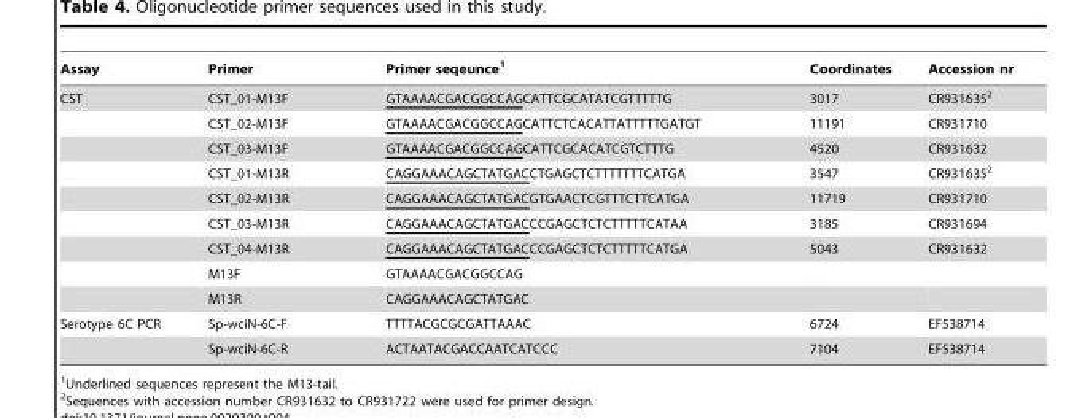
<table><thead><tr><td>Assay</td><td>Primer</td><td>Primer seqeunce<sup>1</sup></td><td>Coordinates</td><td>Accession nr</td></tr></thead><tbody><tr><td rowspan="9">CST</td><td>CST_01-M13F</td><td>GTAAAACGACGGCCAGCATTCGCATATCGTTTTTG</td><td>3017</td><td>CR931635<sup>2</sup></td></tr><tr><td>CST_02-M13F</td><td>GTAAAACGACGGCCAGCATTCTCACATTATTTTTGATGT</td><td>11191</td><td>CR931710</td></tr><tr><td>CST_03-M13F</td><td>GTAAAACGACGGCCAGCATTCGCACATCGTCTTTG</td><td>4520</td><td>CR931632</td></tr><tr><td>CST_01-M13R</td><td>CAGGAAACAGCTATGACCTGAGCTCTTTTTTTCATGA</td><td>3547</td><td>CR931635<sup>2</sup></td></tr><tr><td>CST_02-M13R</td><td>CAGGAAACAGCTATGACGTGAACTCGTTTCTTCATGA</td><td>11719</td><td>CR931710</td></tr><tr><td>CST_03-M13R</td><td>CAGGAAACAGCTATGACCCGAGCTCTCTTTTTCATAA</td><td>3185</td><td>CR931694</td></tr><tr><td>CST_04-M13R</td><td>CAGGAAACAGCTATGACCCGAGCTCTCTTTTTCATGA</td><td>5043</td><td>CR931632</td></tr><tr><td>M13F</td><td>GTAAAACGACGGCCAG</td><td></td><td></td></tr><tr><td>M13R</td><td>CAGGAAACAGCTATGAC</td><td></td><td></td></tr><tr><td rowspan="2">Serotype 6C PCR</td><td>Sp-wciN-6C-F</td><td>TTTTACGCGCGATTAAAC</td><td>6724</td><td>EF538714</td></tr><tr><td>Sp-wciN-6C-R</td><td>ACTAATACGACCAATCATCCC</td><td>7104</td><td>EF538714</td></tr></tbody></table>